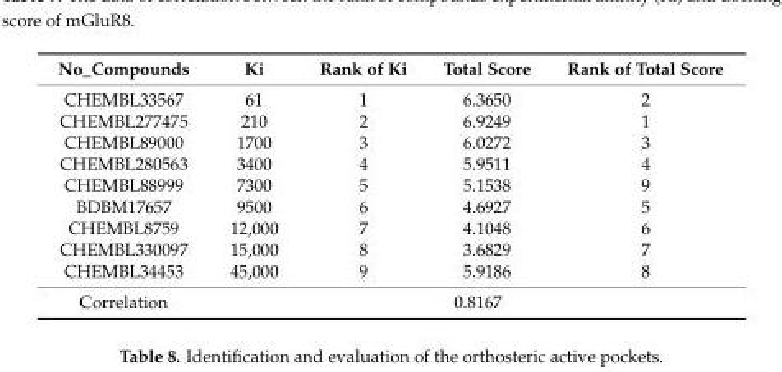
<table><thead><tr><td>No_Compounds</td><td>Ki</td><td>Rank of Ki</td><td>Total Score</td><td>Rank of Total Score</td></tr></thead><tbody><tr><td>CHEMBL33567</td><td>61</td><td>1</td><td>6.3650</td><td>2</td></tr><tr><td>CHEMBL277475</td><td>210</td><td>2</td><td>6.9249</td><td>1</td></tr><tr><td>CHEMBL89000</td><td>1700</td><td>3</td><td>6.0272</td><td>3</td></tr><tr><td>CHEMBL280563</td><td>3400</td><td>4</td><td>5.9511</td><td>4</td></tr><tr><td>CHEMBL88999</td><td>7300</td><td>5</td><td>5.1538</td><td>9</td></tr><tr><td>BDBM17657</td><td>9500</td><td>6</td><td>4.6927</td><td>5</td></tr><tr><td>CHEMBL8759</td><td>12,000</td><td>7</td><td>4.1048</td><td>6</td></tr><tr><td>CHEMBL330097</td><td>15,000</td><td>8</td><td>3.6829</td><td>7</td></tr><tr><td>CHEMBL34453</td><td>45,000</td><td>9</td><td>5.9186</td><td>8</td></tr><tr><td>Correlation</td><td colspan="4">0.8167</td></tr></tbody></table>